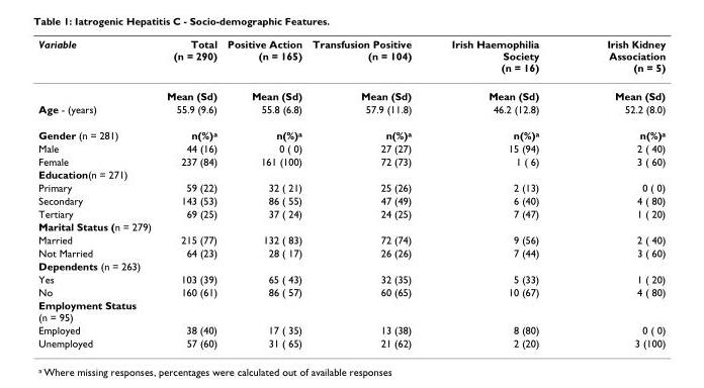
<table><thead><tr><td>Variable</td><td>Total (n = 290)</td><td>Positive Action (n = 165)</td><td>Transfusion Positive (n = 104)</td><td>Irish Haemophilia Society (n = 16)</td><td>Irish Kidney Association (n = 5)</td></tr></thead><tbody><tr><td></td><td>Mean (Sd)</td><td>Mean (Sd)</td><td>Mean (Sd)</td><td>Mean (Sd)</td><td>Mean (Sd)</td></tr><tr><td>Age - (years)</td><td>55.9 (9.6)</td><td>55.8 (6.8)</td><td>57.9 (11.8)</td><td>46.2 (12.8)</td><td>52.2 (8.0)</td></tr><tr><td>Gender (n = 281)</td><td>n(%)<sup>a</sup></td><td>n(%)<sup>a</sup></td><td>n(%)<sup>a</sup></td><td>n(%)<sup>a</sup></td><td>n(%)<sup>a</sup></td></tr><tr><td>Male</td><td>44 (16)</td><td>0 ( 0)</td><td>27 (27)</td><td>15 (94)</td><td>2 ( 40)</td></tr><tr><td>Female</td><td>237 (84)</td><td>161 (100)</td><td>72 (73)</td><td>1 ( 6)</td><td>3 ( 60)</td></tr><tr><td colspan="6">Education(n = 271)</td></tr><tr><td>Primary</td><td>59 (22)</td><td>32 ( 21)</td><td>25 (26)</td><td>2 (13)</td><td>0 ( 0)</td></tr><tr><td>Secondary</td><td>143 (53)</td><td>86 ( 55)</td><td>47 (49)</td><td>6 (40)</td><td>4 ( 80)</td></tr><tr><td>Tertiary</td><td>69 (25)</td><td>37 ( 24)</td><td>24 (25)</td><td>7 (47)</td><td>1 ( 20)</td></tr><tr><td colspan="6">Marital Status (n = 279)</td></tr><tr><td>Married</td><td>215 (77)</td><td>132 ( 83)</td><td>72 (74)</td><td>9 (56)</td><td>2 ( 40)</td></tr><tr><td>Not Married</td><td>64 (23)</td><td>28 ( 17)</td><td>26 (26)</td><td>7 (44)</td><td>3 ( 60)</td></tr><tr><td colspan="6">Dependents (n = 263)</td></tr><tr><td>Yes</td><td>103 (39)</td><td>65 ( 43)</td><td>32 (35)</td><td>5 (33)</td><td>1 ( 20)</td></tr><tr><td>No</td><td>160 (61)</td><td>86 ( 57)</td><td>60 (65)</td><td>10 (67)</td><td>4 ( 80)</td></tr><tr><td colspan="6">Employment Status (n = 95)</td></tr><tr><td>Employed</td><td>38 (40)</td><td>17 ( 35)</td><td>13 (38)</td><td>8 (80)</td><td>0 ( 0)</td></tr><tr><td>Unemployed</td><td>57 (60)</td><td>31 ( 65)</td><td>21 (62)</td><td>2 (20)</td><td>3 (100)</td></tr></tbody></table>